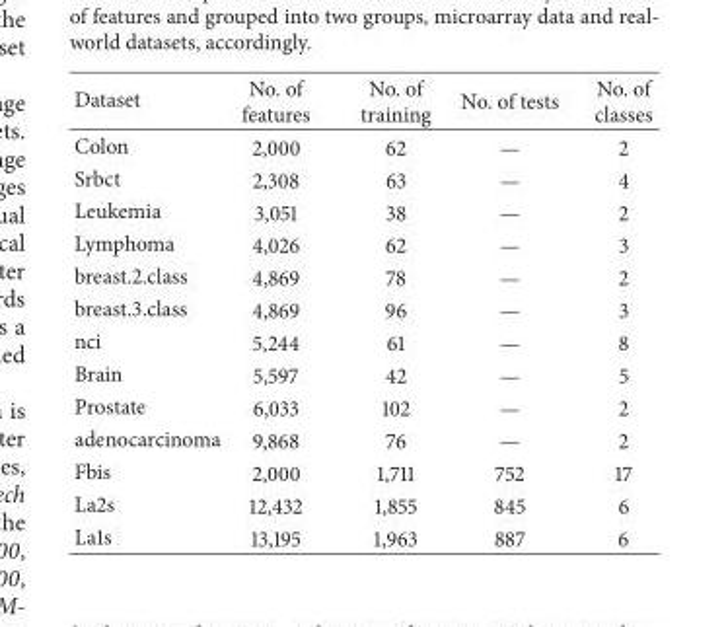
<table><thead><tr><td>Dataset</td><td>No. of features</td><td>No. of training</td><td>No. of tests</td><td>No. of classes</td></tr></thead><tbody><tr><td>Colon</td><td>2,000</td><td>62</td><td>—</td><td>2</td></tr><tr><td>Srbct</td><td>2,308</td><td>63</td><td>—</td><td>4</td></tr><tr><td>Leukemia</td><td>3,051</td><td>38</td><td>—</td><td>2</td></tr><tr><td>Lymphoma</td><td>4,026</td><td>62</td><td>—</td><td>3</td></tr><tr><td>breast.2.class</td><td>4,869</td><td>78</td><td>—</td><td>2</td></tr><tr><td>breast.3.class</td><td>4,869</td><td>96</td><td>—</td><td>3</td></tr><tr><td>nci</td><td>5,244</td><td>61</td><td>—</td><td>8</td></tr><tr><td>Brain</td><td>5,597</td><td>42</td><td>—</td><td>5</td></tr><tr><td>Prostate</td><td>6,033</td><td>102</td><td>—</td><td>2</td></tr><tr><td>adenocarcinoma</td><td>9,868</td><td>76</td><td>—</td><td>2</td></tr><tr><td>Fbis</td><td>2,000</td><td>1,711</td><td>752</td><td>17</td></tr><tr><td>La2s</td><td>12,432</td><td>1,855</td><td>845</td><td>6</td></tr><tr><td>La1s</td><td>13,195</td><td>1,963</td><td>887</td><td>6</td></tr></tbody></table>